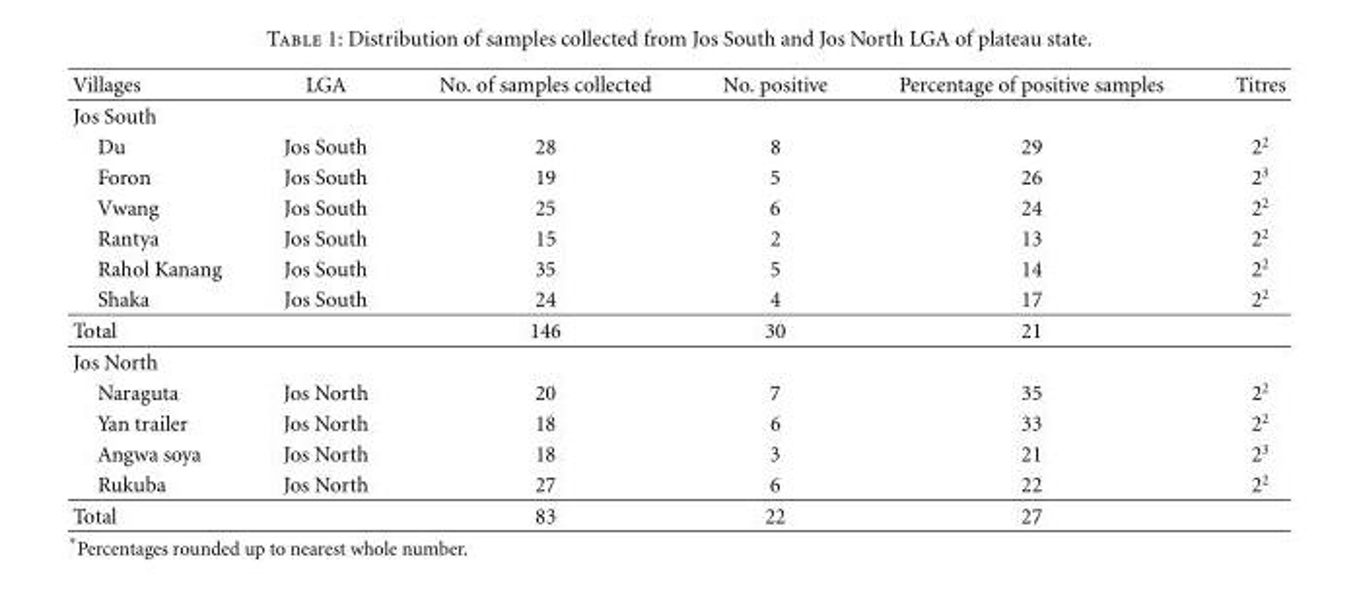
<table><thead><tr><td>Villages</td><td>LGA</td><td>No. of samples collected</td><td>No. positive</td><td>Percentage of positive samples</td><td>Titres</td></tr></thead><tbody><tr><td colspan="6">Jos South</td></tr><tr><td>Du</td><td>Jos South</td><td>28</td><td>8</td><td>29</td><td>2<sup>2</sup></td></tr><tr><td>Foron</td><td>Jos South</td><td>19</td><td>5</td><td>26</td><td>2<sup>3</sup></td></tr><tr><td>Vwang</td><td>Jos South</td><td>25</td><td>6</td><td>24</td><td>2<sup>2</sup></td></tr><tr><td>Rantya</td><td>Jos South</td><td>15</td><td>2</td><td>13</td><td>2<sup>2</sup></td></tr><tr><td>Rahol Kanang</td><td>Jos South</td><td>35</td><td>5</td><td>14</td><td>2<sup>2</sup></td></tr><tr><td>Shaka</td><td>Jos South</td><td>24</td><td>4</td><td>17</td><td>2<sup>2</sup></td></tr><tr><td>Total</td><td></td><td>146</td><td>30</td><td>21</td><td></td></tr><tr><td colspan="6">Jos North</td></tr><tr><td>Naraguta</td><td>Jos North</td><td>20</td><td>7</td><td>35</td><td>2<sup>2</sup></td></tr><tr><td>Yan trailer</td><td>Jos North</td><td>18</td><td>6</td><td>33</td><td>2<sup>2</sup></td></tr><tr><td>Angwa soya</td><td>Jos North</td><td>18</td><td>3</td><td>21</td><td>2<sup>3</sup></td></tr><tr><td>Rukuba</td><td>Jos North</td><td>27</td><td>6</td><td>22</td><td>2<sup>2</sup></td></tr><tr><td>Total</td><td></td><td>83</td><td>22</td><td>27</td><td></td></tr></tbody></table>